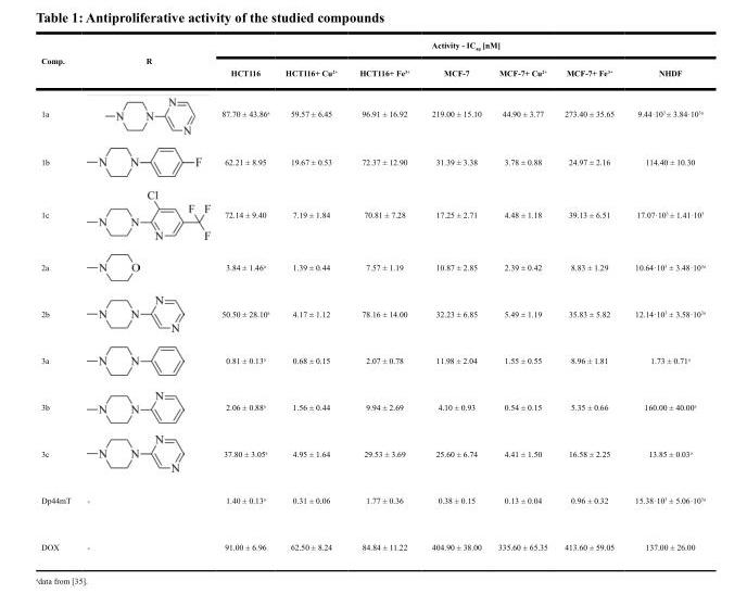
<table><thead><tr><td rowspan="2">Comp.</td><td rowspan="2">R</td><td colspan="7">Activity - IC<sub>50</sub> [nM]</td></tr><tr><td>HCT116</td><td>HCT116+ Cu<sup>2+</sup></td><td>HCT116+ Fe<sup>3+</sup></td><td>MCF-7</td><td>MCF-7+ Cu<sup>2+</sup></td><td>MCF-7+ Fe<sup>3+</sup></td><td>NHDF</td></tr></thead><tbody><tr><td>1a</td><td></td><td>87.70 ± 43.86<sup>a</sup></td><td>59.57 ± 6.45</td><td>96.91 ± 16.92</td><td>219.00 ± 15.10</td><td>44.90 ± 3.77</td><td>273.40 ± 35.65</td><td>9.44·10<sup>3</sup> ± 3.84·10<sup>3a</sup></td></tr><tr><td>1b</td><td></td><td>62.21 ± 8.95</td><td>19.67 ± 0.53</td><td>72.37 ± 12.90</td><td>31.39 ± 3.38</td><td>3.78 ± 0.88</td><td>24.97 ± 2.16</td><td>114.40 ± 10.30</td></tr><tr><td>1c</td><td></td><td>72.14 ± 9.40</td><td>7.19 ± 1.84</td><td>70.81 ± 7.28</td><td>17.25 ± 2.71</td><td>4.48 ± 1.18</td><td>39.13 ± 6.51</td><td>17.07·10<sup>3</sup> ± 1.41·10<sup>3</sup></td></tr><tr><td>2a</td><td></td><td>3.84 ± 1.46<sup>a</sup></td><td>1.39 ± 0.44</td><td>7.57 ± 1.19</td><td>10.87 ± 2.85</td><td>2.39 ± 0.42</td><td>8.83 ± 1.29</td><td>10.64·10<sup>3</sup> ± 3.48·10<sup>3a</sup></td></tr><tr><td>2b</td><td></td><td>50.50 ± 28.10<sup>a</sup></td><td>4.17 ± 1.12</td><td>78.16 ± 14.00</td><td>32.23 ± 6.85</td><td>5.49 ± 1.19</td><td>35.83 ± 5.82</td><td>12.14·10<sup>3</sup> ± 3.58·10<sup>3a</sup></td></tr><tr><td>3a</td><td></td><td>0.81 ± 0.13<sup>a</sup></td><td>0.68 ± 0.15</td><td>2.07 ± 0.78</td><td>11.98 ± 2.04</td><td>1.55 ± 0.55</td><td>8.96 ± 1.81</td><td>1.73 ± 0.71<sup>a</sup></td></tr><tr><td>3b</td><td></td><td>2.06 ± 0.88<sup>a</sup></td><td>1.56 ± 0.44</td><td>9.94 ± 2.69</td><td>4.10 ± 0.93</td><td>0.54 ± 0.15</td><td>5.35 ± 0.66</td><td>160.00 ± 40.00<sup>a</sup></td></tr><tr><td>3c</td><td></td><td>37.80 ± 3.05<sup>a</sup></td><td>4.95 ± 1.64</td><td>29.53 ± 3.69</td><td>25.60 ± 6.74</td><td>4.41 ± 1.50</td><td>16.58 ± 2.25</td><td>13.85 ± 0.03<sup>a</sup></td></tr><tr><td>Dp44mT</td><td>-</td><td>1.40 ± 0.13<sup>a</sup></td><td>0.31 ± 0.06</td><td>1.77 ± 0.36</td><td>0.38 ± 0.15</td><td>0.13 ± 0.04</td><td>0.96 ± 0.32</td><td>15.38·10<sup>3</sup> ± 5.06·10<sup>3a</sup></td></tr><tr><td>DOX</td><td>-</td><td>91.00 ± 6.96</td><td>62.50 ± 8.24</td><td>84.84 ± 11.22</td><td>404.90 ± 38.00</td><td>335.60 ± 65.35</td><td>413.60 ± 59.05</td><td>137.00 ± 26.00</td></tr></tbody></table>